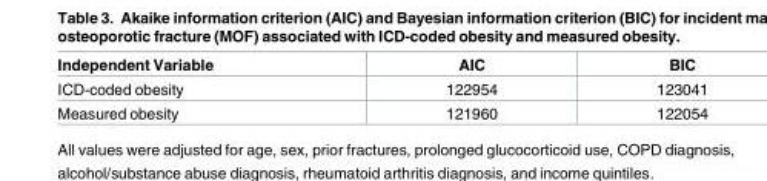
<table><thead><tr><td>Independent Variable</td><td>AIC</td><td>BIC</td></tr></thead><tbody><tr><td>ICD-coded obesity</td><td>122954</td><td>123041</td></tr><tr><td>Measured obesity</td><td>121960</td><td>122054</td></tr></tbody></table>